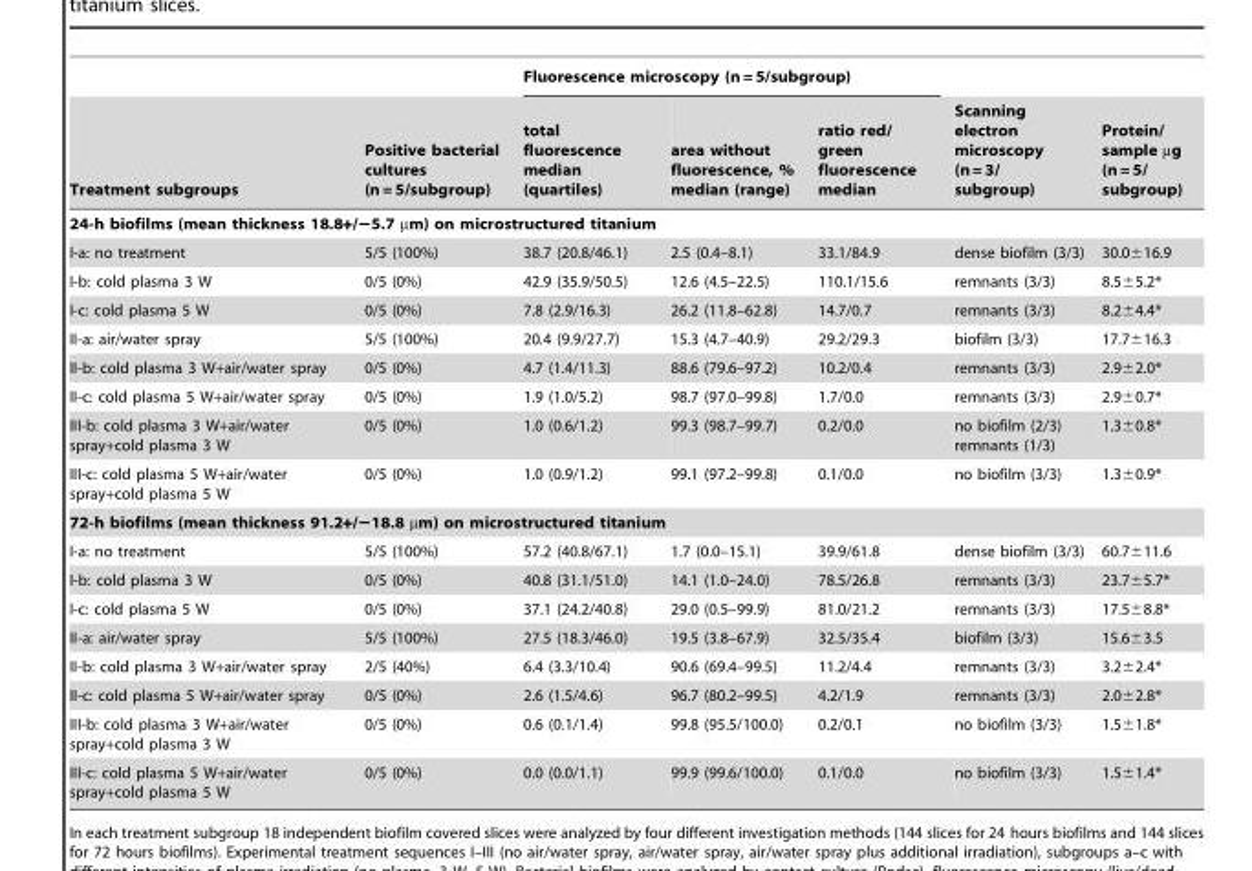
<table><thead><tr><td rowspan="2">Treatment subgroups</td><td rowspan="2">Positive bacterial cultures (n = 5/subgroup)</td><td colspan="3">Fluorescence microscopy (n = 5/subgroup)</td><td rowspan="2">Scanning electron microscopy (n = 3/ subgroup)</td><td rowspan="2">Protein/ sample µg (n = 5/ subgroup)</td></tr><tr><td>total fluorescence median (quartiles)</td><td>area without fluorescence, % median (range)</td><td>ratio red/ green fluorescence median</td></tr></thead><tbody><tr><td colspan="7">24-h biofilms (mean thickness 18.8+/−5.7 µm) on microstructured titanium</td></tr><tr><td>I-a: no treatment</td><td>5/5 (100%)</td><td>38.7 (20.8/46.1)</td><td>2.5 (0.4–8.1)</td><td>33.1/84.9</td><td>dense biofilm (3/3)</td><td>30.0±16.9</td></tr><tr><td>I-b: cold plasma 3 W</td><td>0/5 (0%)</td><td>42.9 (35.9/50.5)</td><td>12.6 (4.5–22.5)</td><td>110.1/15.6</td><td>remnants (3/3)</td><td>8.5±5.2*</td></tr><tr><td>I-c: cold plasma 5 W</td><td>0/5 (0%)</td><td>7.8 (2.9/16.3)</td><td>26.2 (11.8–62.8)</td><td>14.7/0.7</td><td>remnants (3/3)</td><td>8.2±4.4*</td></tr><tr><td>II-a: air/water spray</td><td>5/5 (100%)</td><td>20.4 (9.9/27.7)</td><td>15.3 (4.7–40.9)</td><td>29.2/29.3</td><td>biofilm (3/3)</td><td>17.7±16.3</td></tr><tr><td>II-b: cold plasma 3 W+air/water spray</td><td>0/5 (0%)</td><td>4.7 (1.4/11.3)</td><td>88.6 (79.6–97.2)</td><td>10.2/0.4</td><td>remnants (3/3)</td><td>2.9±2.0*</td></tr><tr><td>II-c: cold plasma 5 W+air/water spray</td><td>0/5 (0%)</td><td>1.9 (1.0/5.2)</td><td>98.7 (97.0–99.8)</td><td>1.7/0.0</td><td>remnants (3/3)</td><td>2.9±0.7*</td></tr><tr><td>III-b: cold plasma 3 W+air/water spray+cold plasma 3 W</td><td>0/5 (0%)</td><td>1.0 (0.6/1.2)</td><td>99.3 (98.7–99.7)</td><td>0.2/0.0</td><td>no biofilm (2/3) remnants (1/3)</td><td>1.3±0.8*</td></tr><tr><td>III-c: cold plasma 5 W+air/water spray+cold plasma 5 W</td><td>0/5 (0%)</td><td>1.0 (0.9/1.2)</td><td>99.1 (97.2–99.8)</td><td>0.1/0.0</td><td>no biofilm (3/3)</td><td>1.3±0.9*</td></tr><tr><td colspan="7">72-h biofilms (mean thickness 91.2+/−18.8 µm) on microstructured titanium</td></tr><tr><td>I-a: no treatment</td><td>5/5 (100%)</td><td>57.2 (40.8/67.1)</td><td>1.7 (0.0–15.1)</td><td>39.9/61.8</td><td>dense biofilm (3/3)</td><td>60.7±11.6</td></tr><tr><td>I-b: cold plasma 3 W</td><td>0/5 (0%)</td><td>40.8 (31.1/51.0)</td><td>14.1 (1.0–24.0)</td><td>78.5/26.8</td><td>remnants (3/3)</td><td>23.7±5.7*</td></tr><tr><td>I-c: cold plasma 5 W</td><td>0/5 (0%)</td><td>37.1 (24.2/40.8)</td><td>29.0 (0.5–99.9)</td><td>81.0/21.2</td><td>remnants (3/3)</td><td>17.5±8.8*</td></tr><tr><td>II-a: air/water spray</td><td>5/5 (100%)</td><td>27.5 (18.3/46.0)</td><td>19.5 (3.8–67.9)</td><td>32.5/35.4</td><td>biofilm (3/3)</td><td>15.6±3.5</td></tr><tr><td>II-b: cold plasma 3 W+air/water spray</td><td>2/5 (40%)</td><td>6.4 (3.3/10.4)</td><td>90.6 (69.4–99.5)</td><td>11.2/4.4</td><td>remnants (3/3)</td><td>3.2±2.4*</td></tr><tr><td>II-c: cold plasma 5 W+air/water spray</td><td>0/5 (0%)</td><td>2.6 (1.5/4.6)</td><td>96.7 (80.2–99.5)</td><td>4.2/1.9</td><td>remnants (3/3)</td><td>2.0±2.8*</td></tr><tr><td>III-b: cold plasma 3 W+air/water spray+cold plasma 3 W</td><td>0/5 (0%)</td><td>0.6 (0.1/1.4)</td><td>99.8 (95.5/100.0)</td><td>0.2/0.1</td><td>no biofilm (3/3)</td><td>1.5±1.8*</td></tr><tr><td>III-c: cold plasma 5 W+air/water spray+cold plasma 5 W</td><td>0/5 (0%)</td><td>0.0 (0.0/1.1)</td><td>99.9 (99.6/100.0)</td><td>0.1/0.0</td><td>no biofilm (3/3)</td><td>1.5±1.4*</td></tr></tbody></table>